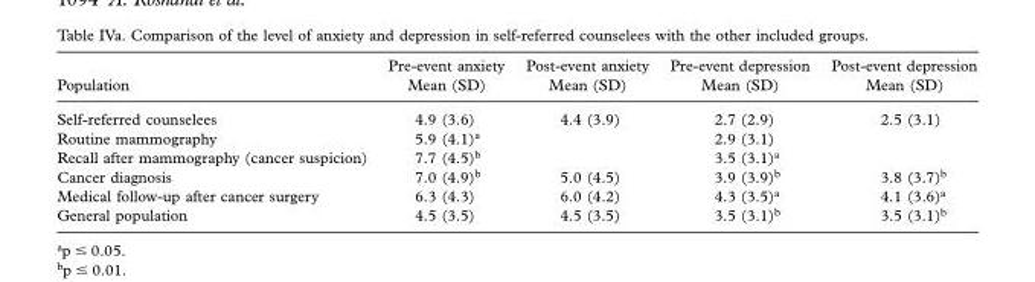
<table><thead><tr><td>Population</td><td>Pre-event anxiety Mean (SD)</td><td>Post-event anxiety Mean (SD)</td><td>Pre-event depression Mean (SD)</td><td>Post-event depression Mean (SD)</td></tr></thead><tbody><tr><td>Self-referred counselees</td><td>4.9 (3.6)</td><td>4.4 (3.9)</td><td>2.7 (2.9)</td><td>2.5 (3.1)</td></tr><tr><td>Routine mammography</td><td>5.9 (4.1) <sup>a</sup></td><td></td><td>2.9 (3.1)</td><td></td></tr><tr><td>Recall after mammography (cancer suspicion)</td><td>7.7 (4.5) <sup>b</sup></td><td></td><td>3.5 (3.1) <sup>a</sup></td><td></td></tr><tr><td>Cancer diagnosis</td><td>7.0 (4.9) <sup>b</sup></td><td>5.0 (4.5)</td><td>3.9 (3.9) <sup>b</sup></td><td>3.8 (3.7) <sup>b</sup></td></tr><tr><td>Medical follow-up after cancer surgery</td><td>6.3 (4.3)</td><td>6.0 (4.2)</td><td>4.3 (3.5) <sup>a</sup></td><td>4.1 (3.6) <sup>a</sup></td></tr><tr><td>General population</td><td>4.5 (3.5)</td><td>4.5 (3.5)</td><td>3.5 (3.1) <sup>b</sup></td><td>3.5 (3.1) <sup>b</sup></td></tr></tbody></table>